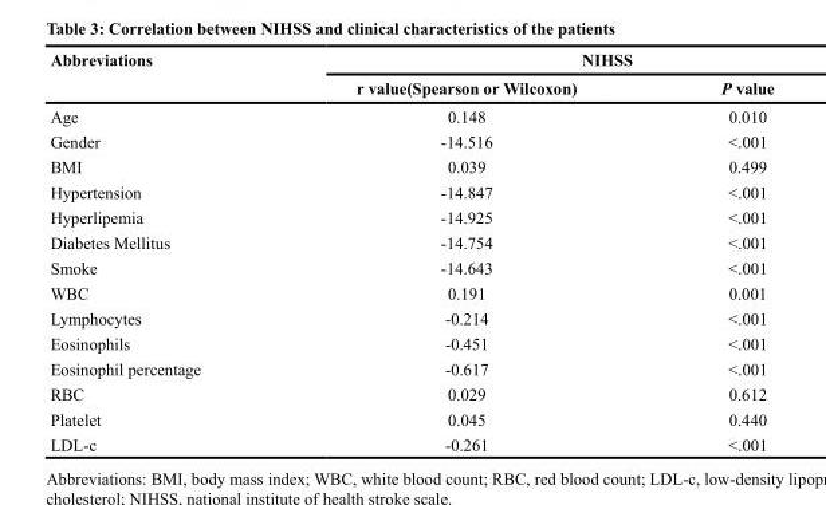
<table><thead><tr><td rowspan="2">Abbreviations</td><td colspan="2">NIHSS</td></tr><tr><td>r value(Spearson or Wilcoxon)</td><td>P value</td></tr></thead><tbody><tr><td>Age</td><td>0.148</td><td>0.010</td></tr><tr><td>Gender</td><td>-14.516</td><td>&lt;.001</td></tr><tr><td>BMI</td><td>0.039</td><td>0.499</td></tr><tr><td>Hypertension</td><td>-14.847</td><td>&lt;.001</td></tr><tr><td>Hyperlipemia</td><td>-14.925</td><td>&lt;.001</td></tr><tr><td>Diabetes Mellitus</td><td>-14.754</td><td>&lt;.001</td></tr><tr><td>Smoke</td><td>-14.643</td><td>&lt;.001</td></tr><tr><td>WBC</td><td>0.191</td><td>0.001</td></tr><tr><td>Lymphocytes</td><td>-0.214</td><td>&lt;.001</td></tr><tr><td>Eosinophils</td><td>-0.451</td><td>&lt;.001</td></tr><tr><td>Eosinophil percentage</td><td>-0.617</td><td>&lt;.001</td></tr><tr><td>RBC</td><td>0.029</td><td>0.612</td></tr><tr><td>Platelet</td><td>0.045</td><td>0.440</td></tr><tr><td>LDL-c</td><td>-0.261</td><td>&lt;.001</td></tr></tbody></table>